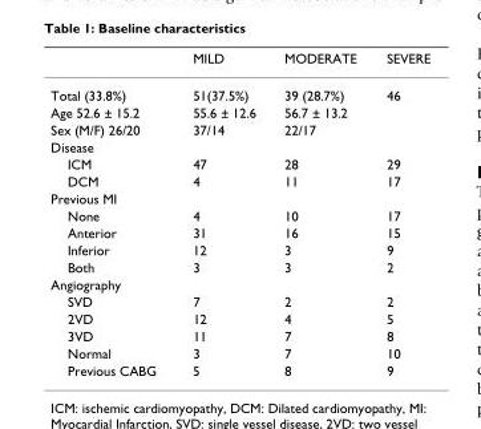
<table><thead><tr><td></td><td>MILD</td><td>MODERATE</td><td>SEVERE</td></tr></thead><tbody><tr><td>Total (33.8%)</td><td>51(37.5%)</td><td>39 (28.7%)</td><td>46</td></tr><tr><td>Age 52.6 ± 15.2</td><td>55.6 ± 12.6</td><td>56.7 ± 13.2</td><td></td></tr><tr><td>Sex (M/F) 26/20</td><td>37/14</td><td>22/17</td><td></td></tr><tr><td colspan="4">Disease</td></tr><tr><td>ICM</td><td>47</td><td>28</td><td>29</td></tr><tr><td>DCM</td><td>4</td><td>11</td><td>17</td></tr><tr><td colspan="4">Previous MI</td></tr><tr><td>None</td><td>4</td><td>10</td><td>17</td></tr><tr><td>Anterior</td><td>31</td><td>16</td><td>15</td></tr><tr><td>Inferior</td><td>12</td><td>3</td><td>9</td></tr><tr><td>Both</td><td>3</td><td>3</td><td>2</td></tr><tr><td colspan="4">Angiography</td></tr><tr><td>SVD</td><td>7</td><td>2</td><td>2</td></tr><tr><td>2VD</td><td>12</td><td>4</td><td>5</td></tr><tr><td>3VD</td><td>11</td><td>7</td><td>8</td></tr><tr><td>Normal</td><td>3</td><td>7</td><td>10</td></tr><tr><td>Previous CABG</td><td>5</td><td>8</td><td>9</td></tr></tbody></table>